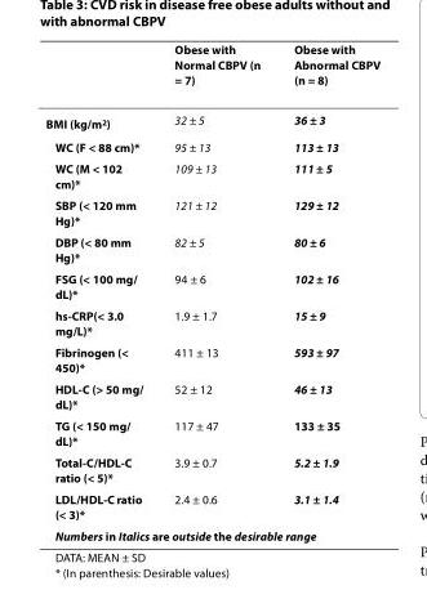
<table><thead><tr><td></td><td>Obese with Normal CBPV (n = 7)</td><td>Obese with Abnormal CBPV (n = 8)</td></tr></thead><tbody><tr><td>BMI (kg/m<sup>2</sup>)</td><td>32 ± 5</td><td>36 ± 3</td></tr><tr><td>WC (F &lt; 88 cm)*</td><td>95 ± 13</td><td>113 ± 13</td></tr><tr><td>WC (M &lt; 102 cm)*</td><td>109 ± 13</td><td>111 ± 5</td></tr><tr><td>SBP (&lt; 120 mm Hg)*</td><td>121 ± 12</td><td>129 ± 12</td></tr><tr><td>DBP (&lt; 80 mm Hg)*</td><td>82 ± 5</td><td>80 ± 6</td></tr><tr><td>FSG (&lt; 100 mg/ dL)*</td><td>94 ± 6</td><td>102 ± 16</td></tr><tr><td>hs-CRP(&lt; 3.0 mg/L)*</td><td>1.9 ± 1.7</td><td>15 ± 9</td></tr><tr><td>Fibrinogen (&lt; 450)*</td><td>411 ± 13</td><td>593 ± 97</td></tr><tr><td>HDL-C (&gt; 50 mg/ dL)*</td><td>52 ± 12</td><td>46 ± 13</td></tr><tr><td>TG (&lt; 150 mg/ dL)*</td><td>117 ± 47</td><td>133 ± 35</td></tr><tr><td>Total-C/HDL-C ratio (&lt; 5)*</td><td>3.9 ± 0.7</td><td>5.2 ± 1.9</td></tr><tr><td>LDL/HDL-C ratio (&lt; 3)*</td><td>2.4 ± 0.6</td><td>3.1 ± 1.4</td></tr><tr><td colspan="3">Numbers in Italics are outside the desirable range</td></tr></tbody></table>